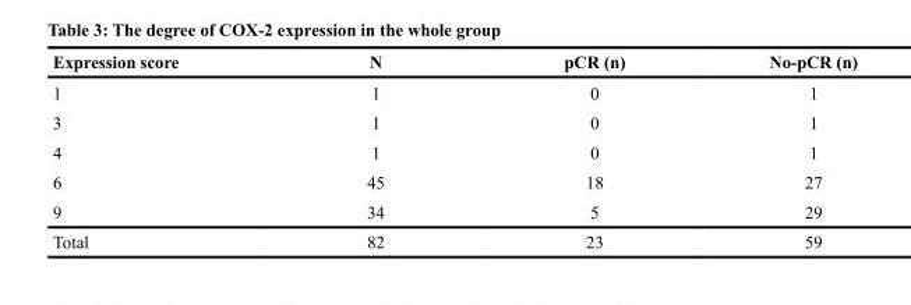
<table><thead><tr><td>Expression score</td><td>N</td><td>pCR (n)</td><td>No-pCR (n)</td></tr></thead><tbody><tr><td>1</td><td>1</td><td>0</td><td>1</td></tr><tr><td>3</td><td>1</td><td>0</td><td>1</td></tr><tr><td>4</td><td>1</td><td>0</td><td>1</td></tr><tr><td>6</td><td>45</td><td>18</td><td>27</td></tr><tr><td>9</td><td>34</td><td>5</td><td>29</td></tr><tr><td>Total</td><td>82</td><td>23</td><td>59</td></tr></tbody></table>